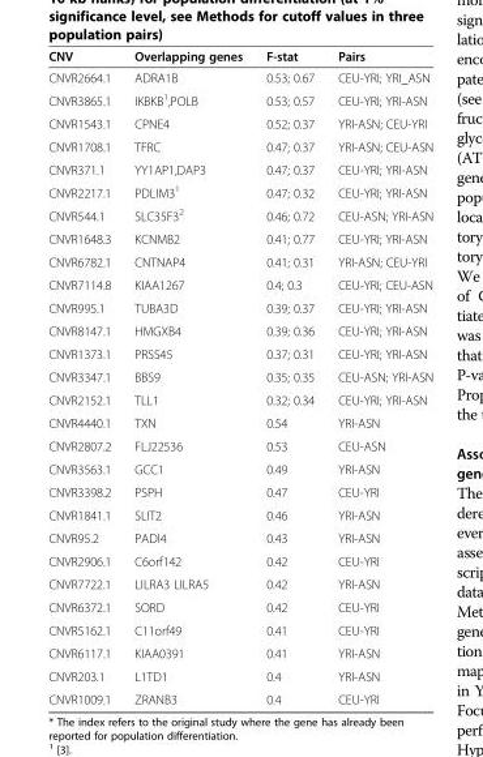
<table><thead><tr><td>CNV</td><td>Overlapping genes</td><td>F-stat</td><td>Pairs</td></tr></thead><tbody><tr><td>CNVR2664.1</td><td>ADRA1B</td><td>0.53; 0.67</td><td>CEU-YRI; YRI_ASN</td></tr><tr><td>CNVR3865.1</td><td>IKBKB<sup>1</sup>,POLB</td><td>0.53; 0.57</td><td>CEU-YRI; YRI-ASN</td></tr><tr><td>CNVR1543.1</td><td>CPNE4</td><td>0.52; 0.37</td><td>YRI-ASN; CEU-YRI</td></tr><tr><td>CNVR1708.1</td><td>TFRC</td><td>0.47; 0.37</td><td>YRI-ASN; CEU-ASN</td></tr><tr><td>CNVR371.1</td><td>YY1AP1,DAP3</td><td>0.47; 0.37</td><td>CEU-YRI; YRI-ASN</td></tr><tr><td>CNVR2217.1</td><td>PDLIM3<sup>1</sup></td><td>0.47; 0.32</td><td>CEU-YRI; YRI-ASN</td></tr><tr><td>CNVR544.1</td><td>SLC35F3<sup>2</sup></td><td>0.46; 0.72</td><td>CEU-ASN; YRI-ASN</td></tr><tr><td>CNVR1648.3</td><td>KCNMB2</td><td>0.41; 0.77</td><td>CEU-YRI; YRI-ASN</td></tr><tr><td>CNVR6782.1</td><td>CNTNAP4</td><td>0.41; 0.31</td><td>YRI-ASN; CEU-YRI</td></tr><tr><td>CNVR7114.8</td><td>KIAA1267</td><td>0.4; 0.3</td><td>CEU-YRI; CEU-ASN</td></tr><tr><td>CNVR995.1</td><td>TUBA3D</td><td>0.39; 0.37</td><td>CEU-YRI; YRI-ASN</td></tr><tr><td>CNVR8147.1</td><td>HMGXB4</td><td>0.39; 0.36</td><td>CEU-YRI; YRI-ASN</td></tr><tr><td>CNVR1373.1</td><td>PRSS45</td><td>0.37; 0.31</td><td>CEU-YRI; YRI-ASN</td></tr><tr><td>CNVR3347.1</td><td>BBS9</td><td>0.35; 0.35</td><td>CEU-ASN; YRI-ASN</td></tr><tr><td>CNVR2152.1</td><td>TLL1</td><td>0.32; 0.34</td><td>CEU-YRI; YRI-ASN</td></tr><tr><td>CNVR4440.1</td><td>TXN</td><td>0.54</td><td>YRI-ASN</td></tr><tr><td>CNVR2807.2</td><td>FLJ22536</td><td>0.53</td><td>CEU-ASN</td></tr><tr><td>CNVR3563.1</td><td>GCC1</td><td>0.49</td><td>YRI-ASN</td></tr><tr><td>CNVR3398.2</td><td>PSPH</td><td>0.47</td><td>CEU-YRI</td></tr><tr><td>CNVR1841.1</td><td>SLIT2</td><td>0.46</td><td>YRI-ASN</td></tr><tr><td>CNVR95.2</td><td>PADI4</td><td>0.43</td><td>YRI-ASN</td></tr><tr><td>CNVR2906.1</td><td>C6orf142</td><td>0.42</td><td>CEU-YRI</td></tr><tr><td>CNVR7722.1</td><td>LILRA3 LILRA5</td><td>0.42</td><td>YRI-ASN</td></tr><tr><td>CNVR6372.1</td><td>SORD</td><td>0.42</td><td>CEU-YRI</td></tr><tr><td>CNVR5162.1</td><td>C11orf49</td><td>0.41</td><td>CEU-YRI</td></tr><tr><td>CNVR6117.1</td><td>KIAA0391</td><td>0.41</td><td>YRI-ASN</td></tr><tr><td>CNVR203.1</td><td>L1TD1</td><td>0.4</td><td>YRI-ASN</td></tr><tr><td>CNVR1009.1</td><td>ZRANB3</td><td>0.4</td><td>CEU-YRI</td></tr></tbody></table>